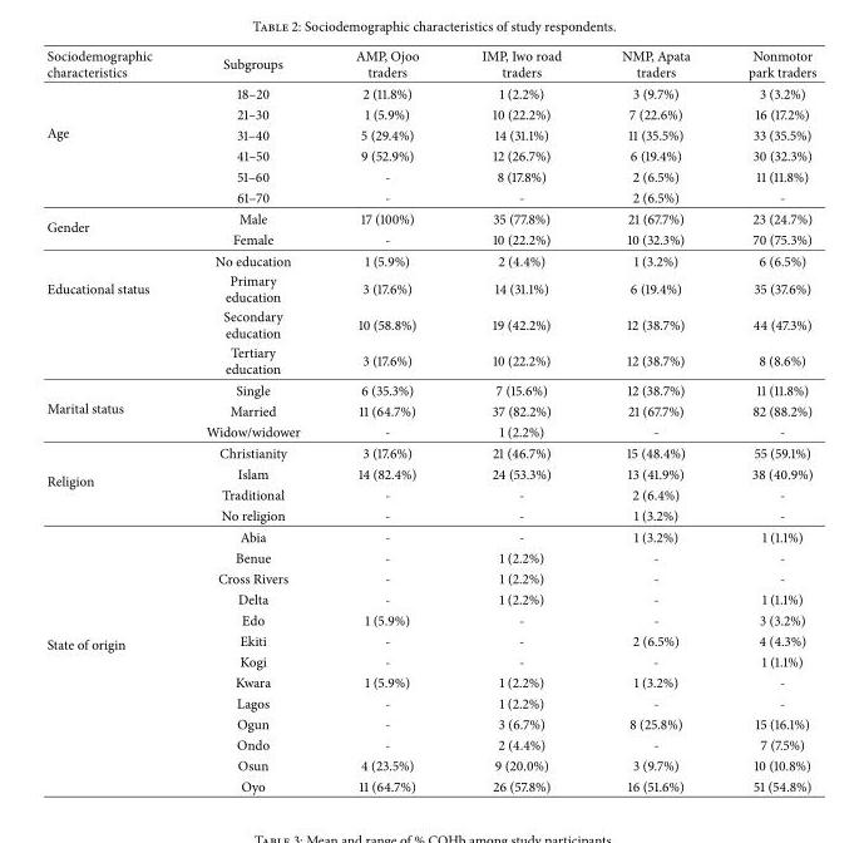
<table><thead><tr><td>Sociodemographic characteristics</td><td>Subgroups</td><td>AMP, Ojoo traders</td><td>IMP, Iwo road traders</td><td>NMP, Apata traders</td><td>Nonmotor park traders</td></tr></thead><tbody><tr><td rowspan="6">Age</td><td>18–20</td><td>2 (11.8%)</td><td>1 (2.2%)</td><td>3 (9.7%)</td><td>3 (3.2%)</td></tr><tr><td>21–30</td><td>1 (5.9%)</td><td>10 (22.2%)</td><td>7 (22.6%)</td><td>16 (17.2%)</td></tr><tr><td>31–40</td><td>5 (29.4%)</td><td>14 (31.1%)</td><td>11 (35.5%)</td><td>33 (35.5%)</td></tr><tr><td>41–50</td><td>9 (52.9%)</td><td>12 (26.7%)</td><td>6 (19.4%)</td><td>30 (32.3%)</td></tr><tr><td>51–60</td><td>-</td><td>8 (17.8%)</td><td>2 (6.5%)</td><td>11 (11.8%)</td></tr><tr><td>61–70</td><td>-</td><td>-</td><td>2 (6.5%)</td><td>-</td></tr><tr><td rowspan="2">Gender</td><td>Male</td><td>17 (100%)</td><td>35 (77.8%)</td><td>21 (67.7%)</td><td>23 (24.7%)</td></tr><tr><td>Female</td><td>-</td><td>10 (22.2%)</td><td>10 (32.3%)</td><td>70 (75.3%)</td></tr><tr><td rowspan="4">Educational status</td><td>No education</td><td>1 (5.9%)</td><td>2 (4.4%)</td><td>1 (3.2%)</td><td>6 (6.5%)</td></tr><tr><td>Primary education</td><td>3 (17.6%)</td><td>14 (31.1%)</td><td>6 (19.4%)</td><td>35 (37.6%)</td></tr><tr><td>Secondary education</td><td>10 (58.8%)</td><td>19 (42.2%)</td><td>12 (38.7%)</td><td>44 (47.3%)</td></tr><tr><td>Tertiary education</td><td>3 (17.6%)</td><td>10 (22.2%)</td><td>12 (38.7%)</td><td>8 (8.6%)</td></tr><tr><td rowspan="3">Marital status</td><td>Single</td><td>6 (35.3%)</td><td>7 (15.6%)</td><td>12 (38.7%)</td><td>11 (11.8%)</td></tr><tr><td>Married</td><td>11 (64.7%)</td><td>37 (82.2%)</td><td>21 (67.7%)</td><td>82 (88.2%)</td></tr><tr><td>Widow/widower</td><td>-</td><td>1 (2.2%)</td><td>-</td><td>-</td></tr><tr><td rowspan="4">Religion</td><td>Christianity</td><td>3 (17.6%)</td><td>21 (46.7%)</td><td>15 (48.4%)</td><td>55 (59.1%)</td></tr><tr><td>Islam</td><td>14 (82.4%)</td><td>24 (53.3%)</td><td>13 (41.9%)</td><td>38 (40.9%)</td></tr><tr><td>Traditional</td><td>-</td><td>-</td><td>2 (6.4%)</td><td>-</td></tr><tr><td>No religion</td><td>-</td><td>-</td><td>1 (3.2%)</td><td>-</td></tr><tr><td rowspan="13">State of origin</td><td>Abia</td><td>-</td><td>-</td><td>1 (3.2%)</td><td>1 (1.1%)</td></tr><tr><td>Benue</td><td>-</td><td>1 (2.2%)</td><td>-</td><td>-</td></tr><tr><td>Cross Rivers</td><td>-</td><td>1 (2.2%)</td><td>-</td><td>-</td></tr><tr><td>Delta</td><td>-</td><td>1 (2.2%)</td><td>-</td><td>1 (1.1%)</td></tr><tr><td>Edo</td><td>1 (5.9%)</td><td>-</td><td>-</td><td>3 (3.2%)</td></tr><tr><td>Ekiti</td><td>-</td><td>-</td><td>2 (6.5%)</td><td>4 (4.3%)</td></tr><tr><td>Kogi</td><td>-</td><td>-</td><td>-</td><td>1 (1.1%)</td></tr><tr><td>Kwara</td><td>1 (5.9%)</td><td>1 (2.2%)</td><td>1 (3.2%)</td><td>-</td></tr><tr><td>Lagos</td><td>-</td><td>1 (2.2%)</td><td>-</td><td>-</td></tr><tr><td>Ogun</td><td>-</td><td>3 (6.7%)</td><td>8 (25.8%)</td><td>15 (16.1%)</td></tr><tr><td>Ondo</td><td>-</td><td>2 (4.4%)</td><td>-</td><td>7 (7.5%)</td></tr><tr><td>Osun</td><td>4 (23.5%)</td><td>9 (20.0%)</td><td>3 (9.7%)</td><td>10 (10.8%)</td></tr><tr><td>Oyo</td><td>11 (64.7%)</td><td>26 (57.8%)</td><td>16 (51.6%)</td><td>51 (54.8%)</td></tr></tbody></table>